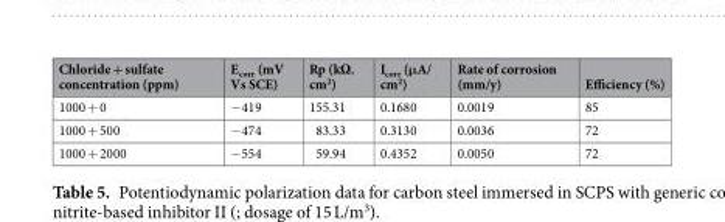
<table><thead><tr><td>Chloride + sulfate concentration (ppm)</td><td>E<sub>corr</sub> (mV Vs SCE)</td><td>Rp (kΩ. cm<sup>2</sup>)</td><td>I<sub>corr</sub> (μA/ cm<sup>2</sup>)</td><td>Rate of corrosion (mm/y)</td><td>Efficiency (%)</td></tr></thead><tbody><tr><td>1000 + 0</td><td>−419</td><td>155.31</td><td>0.1680</td><td>0.0019</td><td>85</td></tr><tr><td>1000 + 500</td><td>−474</td><td>83.33</td><td>0.3130</td><td>0.0036</td><td>72</td></tr><tr><td>1000 + 2000</td><td>−554</td><td>59.94</td><td>0.4352</td><td>0.0050</td><td>72</td></tr></tbody></table>